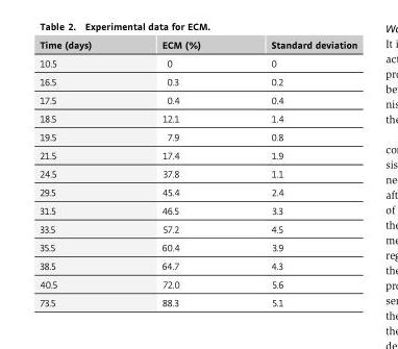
<table><thead><tr><td>Time (days)</td><td>ECM (%)</td><td>Standard deviation</td></tr></thead><tbody><tr><td>10.5</td><td>0</td><td>0</td></tr><tr><td>16.5</td><td>0.3</td><td>0.2</td></tr><tr><td>17.5</td><td>0.4</td><td>0.4</td></tr><tr><td>18.5</td><td>12.1</td><td>1.4</td></tr><tr><td>19.5</td><td>7.9</td><td>0.8</td></tr><tr><td>21.5</td><td>17.4</td><td>1.9</td></tr><tr><td>24.5</td><td>37.8</td><td>1.1</td></tr><tr><td>29.5</td><td>45.4</td><td>2.4</td></tr><tr><td>31.5</td><td>46.5</td><td>3.3</td></tr><tr><td>33.5</td><td>57.2</td><td>4.5</td></tr><tr><td>35.5</td><td>60.4</td><td>3.9</td></tr><tr><td>38.5</td><td>64.7</td><td>4.3</td></tr><tr><td>40.5</td><td>72.0</td><td>5.6</td></tr><tr><td>73.5</td><td>88.3</td><td>5.1</td></tr></tbody></table>